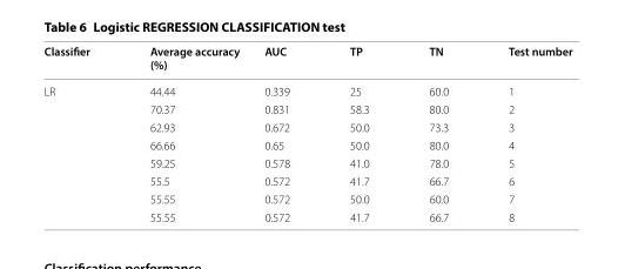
<table><thead><tr><td>Classifier</td><td>Average accuracy (%)</td><td>AUC</td><td>TP</td><td>TN</td><td>Test number</td></tr></thead><tbody><tr><td rowspan="8">LR</td><td>44.44</td><td>0.339</td><td>25</td><td>60.0</td><td>1</td></tr><tr><td>70.37</td><td>0.831</td><td>58.3</td><td>80.0</td><td>2</td></tr><tr><td>62.93</td><td>0.672</td><td>50.0</td><td>73.3</td><td>3</td></tr><tr><td>66.66</td><td>0.65</td><td>50.0</td><td>80.0</td><td>4</td></tr><tr><td>59.25</td><td>0.578</td><td>41.0</td><td>78.0</td><td>5</td></tr><tr><td>55.5</td><td>0.572</td><td>41.7</td><td>66.7</td><td>6</td></tr><tr><td>55.55</td><td>0.572</td><td>50.0</td><td>60.0</td><td>7</td></tr><tr><td>55.55</td><td>0.572</td><td>41.7</td><td>66.7</td><td>8</td></tr></tbody></table>